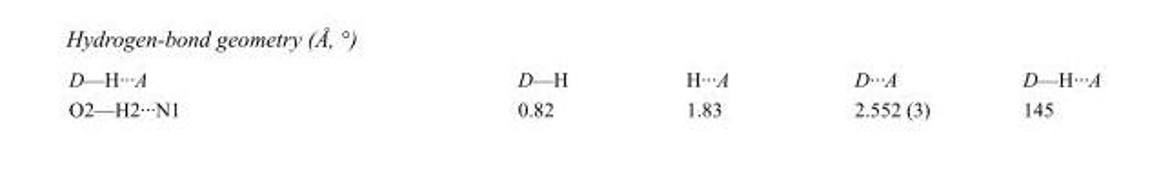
<table><tbody><tr><td>D—H···A</td><td>D—H</td><td>H···A</td><td>D···A</td><td>D—H···A</td></tr><tr><td>O2—H2···N1</td><td>0.82</td><td>1.83</td><td>2.552 (3)</td><td>145</td></tr></tbody></table>